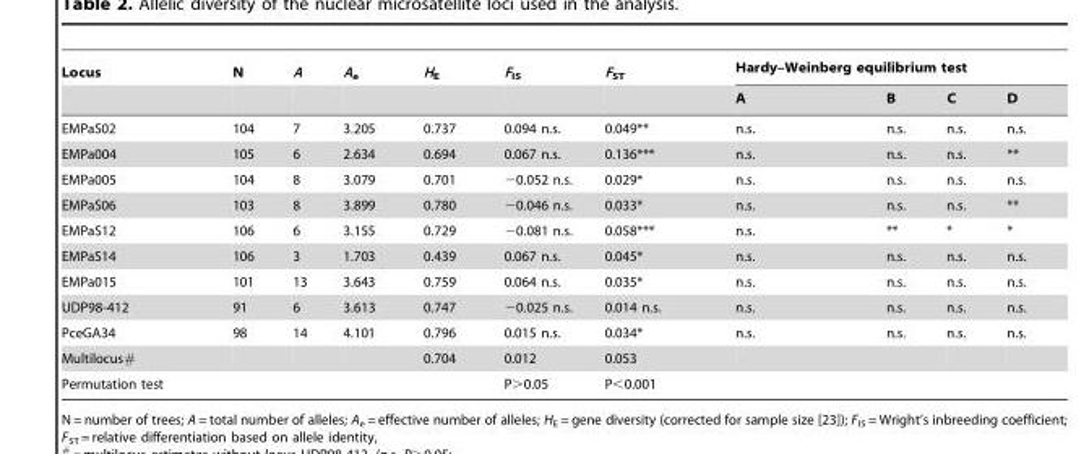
<table><thead><tr><td rowspan="2">Locus</td><td rowspan="2">N</td><td rowspan="2">A</td><td rowspan="2">A<sub>e</sub></td><td rowspan="2">H<sub>E</sub></td><td rowspan="2">F<sub>IS</sub></td><td rowspan="2">F<sub>ST</sub></td><td colspan="4">Hardy–Weinberg equilibrium test</td></tr><tr><td>A</td><td>B</td><td>C</td><td>D</td></tr></thead><tbody><tr><td>EMPaS02</td><td>104</td><td>7</td><td>3.205</td><td>0.737</td><td>0.094 n.s.</td><td>0.049**</td><td>n.s.</td><td>n.s.</td><td>n.s.</td><td>n.s.</td></tr><tr><td>EMPa004</td><td>105</td><td>6</td><td>2.634</td><td>0.694</td><td>0.067 n.s.</td><td>0.136***</td><td>n.s.</td><td>n.s.</td><td>n.s.</td><td>**</td></tr><tr><td>EMPa005</td><td>104</td><td>8</td><td>3.079</td><td>0.701</td><td>−0.052 n.s.</td><td>0.029*</td><td>n.s.</td><td>n.s.</td><td>n.s.</td><td>n.s.</td></tr><tr><td>EMPaS06</td><td>103</td><td>8</td><td>3.899</td><td>0.780</td><td>−0.046 n.s.</td><td>0.033*</td><td>n.s.</td><td>n.s.</td><td>n.s.</td><td>**</td></tr><tr><td>EMPaS12</td><td>106</td><td>6</td><td>3.155</td><td>0.729</td><td>−0.081 n.s.</td><td>0.058***</td><td>n.s.</td><td>**</td><td>*</td><td>*</td></tr><tr><td>EMPaS14</td><td>106</td><td>3</td><td>1.703</td><td>0.439</td><td>0.067 n.s.</td><td>0.045*</td><td>n.s.</td><td>n.s.</td><td>n.s.</td><td>n.s.</td></tr><tr><td>EMPa015</td><td>101</td><td>13</td><td>3.643</td><td>0.759</td><td>0.064 n.s.</td><td>0.035*</td><td>n.s.</td><td>n.s.</td><td>n.s.</td><td>n.s.</td></tr><tr><td>UDP98-412</td><td>91</td><td>6</td><td>3.613</td><td>0.747</td><td>−0.025 n.s.</td><td>0.014 n.s.</td><td>n.s.</td><td>n.s.</td><td>n.s.</td><td>n.s.</td></tr><tr><td>PceGA34</td><td>98</td><td>14</td><td>4.101</td><td>0.796</td><td>0.015 n.s.</td><td>0.034*</td><td>n.s.</td><td>n.s.</td><td>n.s.</td><td>n.s.</td></tr><tr><td>Multilocus#</td><td></td><td></td><td></td><td>0.704</td><td>0.012</td><td>0.053</td><td></td><td></td><td></td><td></td></tr><tr><td>Permutation test</td><td></td><td></td><td></td><td></td><td>P&gt;0.05</td><td>P&lt;0.001</td><td></td><td></td><td></td><td></td></tr></tbody></table>